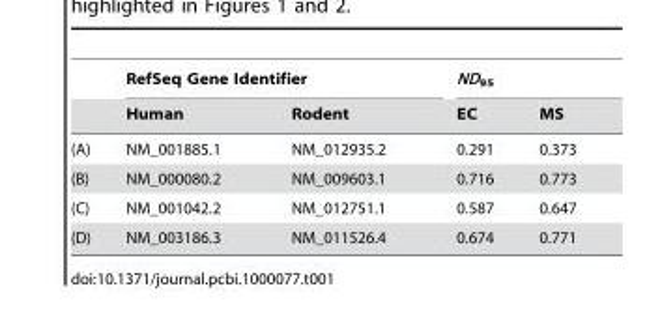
<table><thead><tr><td rowspan="2"></td><td colspan="2">RefSeq Gene Identifier</td><td colspan="2">ND<sub>95</sub></td></tr><tr><td>Human</td><td>Rodent</td><td>EC</td><td>MS</td></tr></thead><tbody><tr><td>(A)</td><td>NM_001885.1</td><td>NM_012935.2</td><td>0.291</td><td>0.373</td></tr><tr><td>(B)</td><td>NM_000080.2</td><td>NM_009603.1</td><td>0.716</td><td>0.773</td></tr><tr><td>(C)</td><td>NM_001042.2</td><td>NM_012751.1</td><td>0.587</td><td>0.647</td></tr><tr><td>(D)</td><td>NM_003186.3</td><td>NM_011526.4</td><td>0.674</td><td>0.771</td></tr></tbody></table>